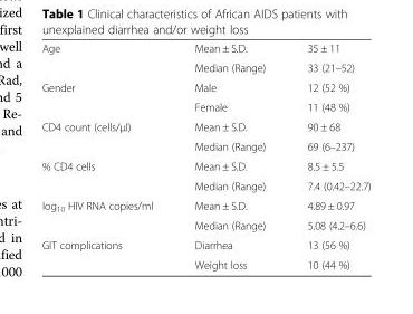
<table><tbody><tr><td rowspan="2">Age</td><td>Mean ± S.D.</td><td>35 ± 11</td></tr><tr><td>Median (Range)</td><td>33 (21–52)</td></tr><tr><td rowspan="2">Gender</td><td>Male</td><td>12 (52 %)</td></tr><tr><td>Female</td><td>11 (48 %)</td></tr><tr><td rowspan="2">CD4 count (cells/μl)</td><td>Mean ± S.D.</td><td>90 ± 68</td></tr><tr><td>Median (Range)</td><td>69 (6–237)</td></tr><tr><td rowspan="2">% CD4 cells</td><td>Mean ± S.D.</td><td>8.5 ± 5.5</td></tr><tr><td>Median (Range)</td><td>7.4 (0.42–22.7)</td></tr><tr><td rowspan="2">log<sub>10</sub> HIV RNA copies/ml</td><td>Mean ± S.D.</td><td>4.89 ± 0.97</td></tr><tr><td>Median (Range)</td><td>5.08 (4.2–6.6)</td></tr><tr><td rowspan="2">GIT complications</td><td>Diarrhea</td><td>13 (56 %)</td></tr><tr><td>Weight loss</td><td>10 (44 %)</td></tr></tbody></table>